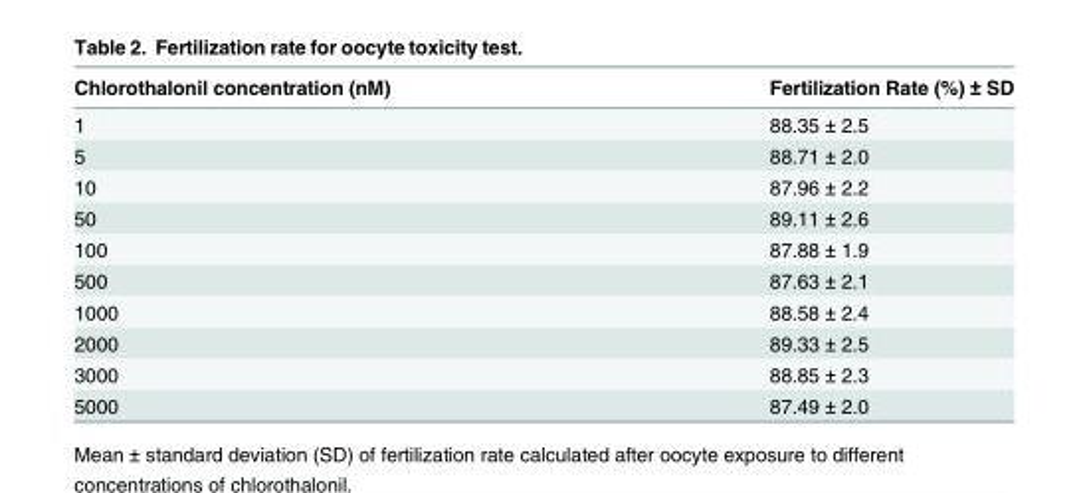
<table><thead><tr><td>Chlorothalonil concentration (nM)</td><td>Fertilization Rate (%) ± SD</td></tr></thead><tbody><tr><td>1</td><td>88.35 ± 2.5</td></tr><tr><td>5</td><td>88.71 ± 2.0</td></tr><tr><td>10</td><td>87.96 ± 2.2</td></tr><tr><td>50</td><td>89.11 ± 2.6</td></tr><tr><td>100</td><td>87.88 ± 1.9</td></tr><tr><td>500</td><td>87.63 ± 2.1</td></tr><tr><td>1000</td><td>88.58 ± 2.4</td></tr><tr><td>2000</td><td>89.33 ± 2.5</td></tr><tr><td>3000</td><td>88.85 ± 2.3</td></tr><tr><td>5000</td><td>87.49 ± 2.0</td></tr></tbody></table>